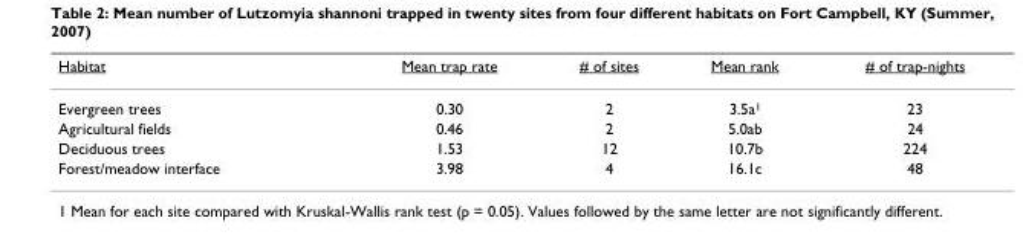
<table><thead><tr><td>Habitat</td><td>Mean trap rate</td><td># of sites</td><td>Mean rank</td><td># of trap-nights</td></tr></thead><tbody><tr><td>Evergreen trees</td><td>0.30</td><td>2</td><td>3.5a<sup>1</sup></td><td>23</td></tr><tr><td>Agricultural fields</td><td>0.46</td><td>2</td><td>5.0ab</td><td>24</td></tr><tr><td>Deciduous trees</td><td>1.53</td><td>12</td><td>10.7b</td><td>224</td></tr><tr><td>Forest/meadow interface</td><td>3.98</td><td>4</td><td>16.1c</td><td>48</td></tr></tbody></table>